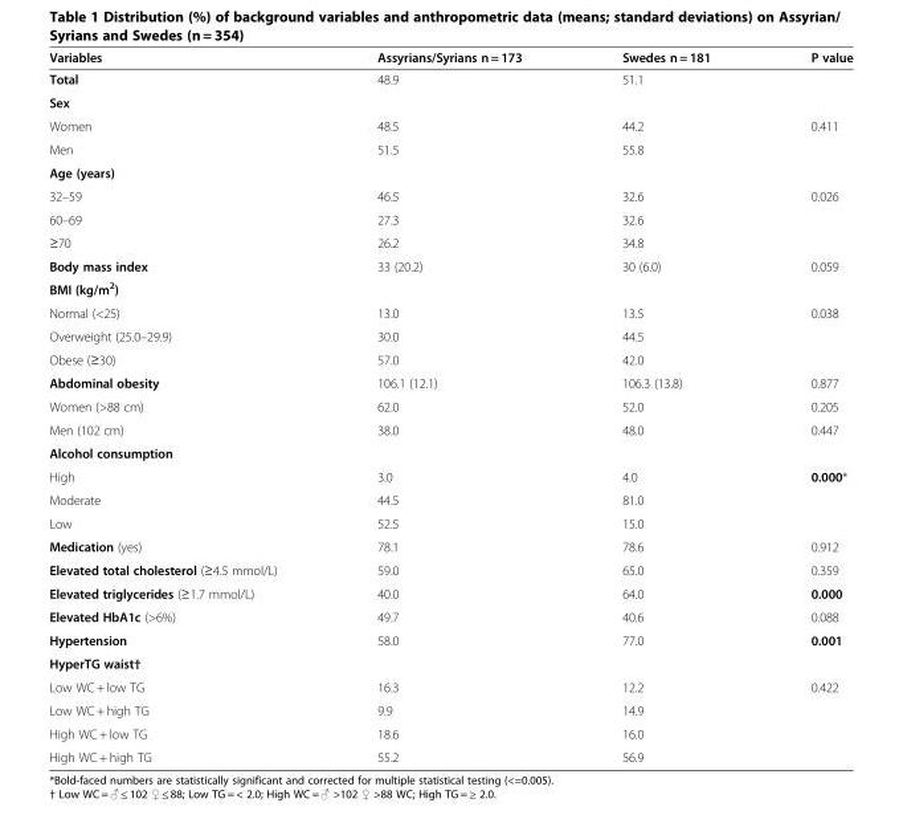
<table><thead><tr><td>Variables</td><td>Assyrians/Syrians n = 173</td><td>Swedes n = 181</td><td>P value</td></tr></thead><tbody><tr><td>Total</td><td>48.9</td><td>51.1</td><td></td></tr><tr><td colspan="4">Sex</td></tr><tr><td>Women</td><td>48.5</td><td>44.2</td><td>0.411</td></tr><tr><td>Men</td><td>51.5</td><td>55.8</td><td></td></tr><tr><td colspan="4">Age (years)</td></tr><tr><td>32–59</td><td>46.5</td><td>32.6</td><td>0.026</td></tr><tr><td>60–69</td><td>27.3</td><td>32.6</td><td></td></tr><tr><td>≥70</td><td>26.2</td><td>34.8</td><td></td></tr><tr><td>Body mass index</td><td>33 (20.2)</td><td>30 (6.0)</td><td>0.059</td></tr><tr><td colspan="4">BMI (kg/m<sup>2</sup>)</td></tr><tr><td>Normal (&lt;25)</td><td>13.0</td><td>13.5</td><td>0.038</td></tr><tr><td>Overweight (25.0–29.9)</td><td>30.0</td><td>44.5</td><td></td></tr><tr><td>Obese (≥30)</td><td>57.0</td><td>42.0</td><td></td></tr><tr><td>Abdominal obesity</td><td>106.1 (12.1)</td><td>106.3 (13.8)</td><td>0.877</td></tr><tr><td>Women (&gt;88 cm)</td><td>62.0</td><td>52.0</td><td>0.205</td></tr><tr><td>Men (102 cm)</td><td>38.0</td><td>48.0</td><td>0.447</td></tr><tr><td colspan="4">Alcohol consumption</td></tr><tr><td>High</td><td>3.0</td><td>4.0</td><td>0.000*</td></tr><tr><td>Moderate</td><td>44.5</td><td>81.0</td><td></td></tr><tr><td>Low</td><td>52.5</td><td>15.0</td><td></td></tr><tr><td>Medication (yes)</td><td>78.1</td><td>78.6</td><td>0.912</td></tr><tr><td>Elevated total cholesterol (≥4.5 mmol/L)</td><td>59.0</td><td>65.0</td><td>0.359</td></tr><tr><td>Elevated triglycerides (≥1.7 mmol/L)</td><td>40.0</td><td>64.0</td><td>0.000</td></tr><tr><td>Elevated HbA1c (&gt;6%)</td><td>49.7</td><td>40.6</td><td>0.088</td></tr><tr><td>Hypertension</td><td>58.0</td><td>77.0</td><td>0.001</td></tr><tr><td colspan="4">HyperTG waist†</td></tr><tr><td>Low WC + low TG</td><td>16.3</td><td>12.2</td><td>0.422</td></tr><tr><td>Low WC + high TG</td><td>9.9</td><td>14.9</td><td></td></tr><tr><td>High WC + low TG</td><td>18.6</td><td>16.0</td><td></td></tr><tr><td>High WC + high TG</td><td>55.2</td><td>56.9</td><td></td></tr></tbody></table>